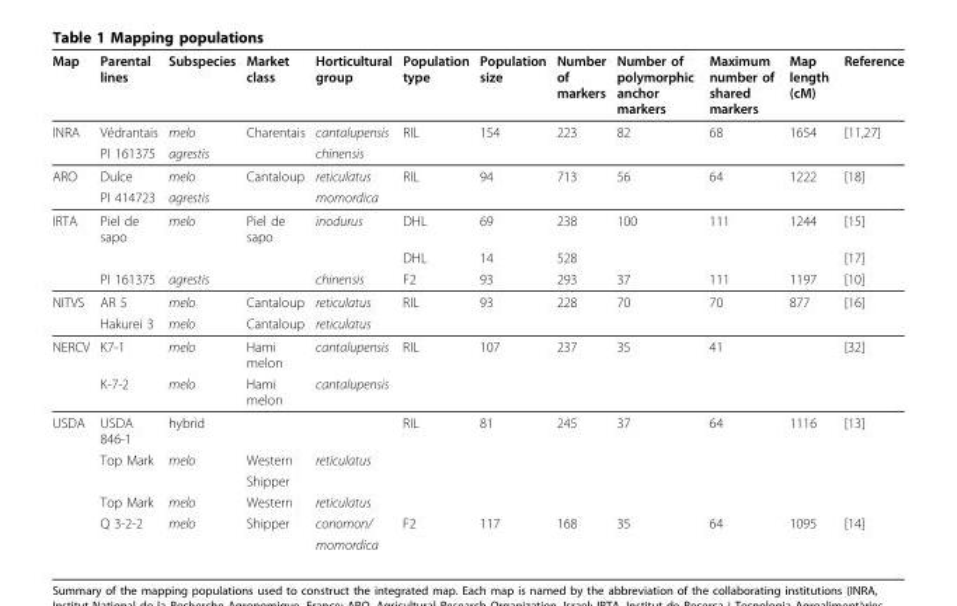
<table><thead><tr><td>Map</td><td>Parental lines</td><td>Subspecies</td><td>Market class</td><td>Horticultural group</td><td>Population type</td><td>Population size</td><td>Number of markers</td><td>Number of polymorphic anchor markers</td><td>Maximum number of shared markers</td><td>Map length (cM)</td><td>Reference</td></tr></thead><tbody><tr><td rowspan="2">INRA</td><td>Védrantais</td><td>melo</td><td>Charentais</td><td>cantalupensis</td><td>RIL</td><td>154</td><td>223</td><td>82</td><td>68</td><td>1654</td><td>[11,27]</td></tr><tr><td>PI 161375</td><td>agrestis</td><td></td><td>chinensis</td><td></td><td></td><td></td><td></td><td></td><td></td><td></td></tr><tr><td rowspan="2">ARO</td><td>Dulce</td><td>melo</td><td>Cantaloup</td><td>reticulatus</td><td>RIL</td><td>94</td><td>713</td><td>56</td><td>64</td><td>1222</td><td>[18]</td></tr><tr><td>PI 414723</td><td>agrestis</td><td></td><td>momordica</td><td></td><td></td><td></td><td></td><td></td><td></td><td></td></tr><tr><td rowspan="3">IRTA</td><td>Piel de sapo</td><td>melo</td><td>Piel de sapo</td><td>inodurus</td><td>DHL</td><td>69</td><td>238</td><td>100</td><td>111</td><td>1244</td><td>[15]</td></tr><tr><td></td><td></td><td></td><td></td><td>DHL</td><td>14</td><td>528</td><td></td><td></td><td></td><td>[17]</td></tr><tr><td>PI 161375</td><td>agrestis</td><td></td><td>chinensis</td><td>F2</td><td>93</td><td>293</td><td>37</td><td>111</td><td>1197</td><td>[10]</td></tr><tr><td rowspan="2">NITVS</td><td>AR 5</td><td>melo</td><td>Cantaloup</td><td>reticulatus</td><td>RIL</td><td>93</td><td>228</td><td>70</td><td>70</td><td>877</td><td>[16]</td></tr><tr><td>Hakurei 3</td><td>melo</td><td>Cantaloup</td><td>reticulatus</td><td></td><td></td><td></td><td></td><td></td><td></td><td></td></tr><tr><td rowspan="2">NERCV</td><td>K7-1</td><td>melo</td><td>Hami melon</td><td>cantalupensis</td><td>RIL</td><td>107</td><td>237</td><td>35</td><td>41</td><td></td><td>[32]</td></tr><tr><td>K-7-2</td><td>melo</td><td>Hami melon</td><td>cantalupensis</td><td></td><td></td><td></td><td></td><td></td><td></td><td></td></tr><tr><td rowspan="6">USDA</td><td>USDA 846-1</td><td>hybrid</td><td></td><td></td><td>RIL</td><td>81</td><td>245</td><td>37</td><td>64</td><td>1116</td><td>[13]</td></tr><tr><td>Top Mark</td><td>melo</td><td>Western</td><td>reticulatus</td><td></td><td></td><td></td><td></td><td></td><td></td><td></td></tr><tr><td></td><td></td><td>Shipper</td><td></td><td></td><td></td><td></td><td></td><td></td><td></td><td></td></tr><tr><td>Top Mark</td><td>melo</td><td>Western</td><td>reticulatus</td><td></td><td></td><td></td><td></td><td></td><td></td><td></td></tr><tr><td>Q 3-2-2</td><td>melo</td><td>Shipper</td><td>conomon/</td><td>F2</td><td>117</td><td>168</td><td>35</td><td>64</td><td>1095</td><td>[14]</td></tr><tr><td></td><td></td><td></td><td>momordica</td><td></td><td></td><td></td><td></td><td></td><td></td><td></td></tr></tbody></table>